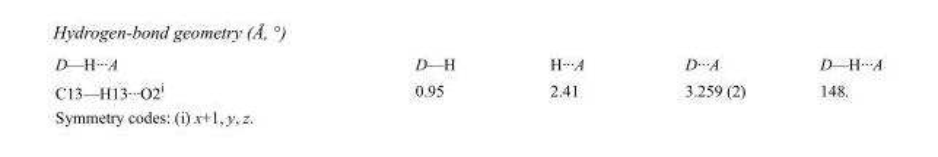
<table><tbody><tr><td>D—H···A</td><td>D—H</td><td>H···A</td><td>D···A</td><td>D—H···A</td></tr><tr><td>C13—H13···O2<sup>i</sup></td><td>0.95</td><td>2.41</td><td>3.259 (2)</td><td>148.</td></tr></tbody></table>